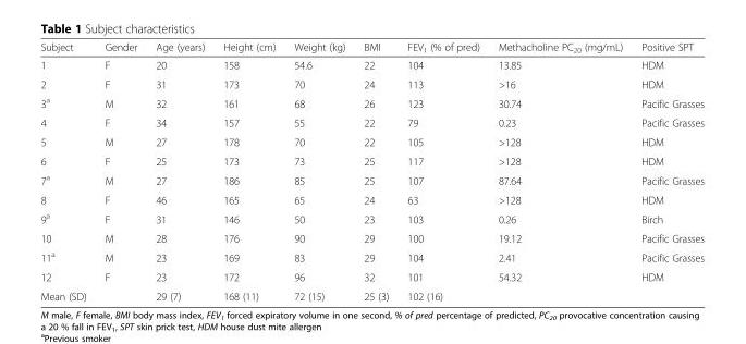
<table><thead><tr><td>Subject</td><td>Gender</td><td>Age (years)</td><td>Height (cm)</td><td>Weight (kg)</td><td>BMI</td><td>FEV<sub>1</sub> (% of pred)</td><td>Methacholine PC<sub>20</sub> (mg/mL)</td><td>Positive SPT</td></tr></thead><tbody><tr><td>1</td><td>F</td><td>20</td><td>158</td><td>54.6</td><td>22</td><td>104</td><td>13.85</td><td>HDM</td></tr><tr><td>2</td><td>F</td><td>31</td><td>173</td><td>70</td><td>24</td><td>113</td><td>&gt;16</td><td>HDM</td></tr><tr><td>3<sup>a</sup></td><td>M</td><td>32</td><td>161</td><td>68</td><td>26</td><td>123</td><td>30.74</td><td>Pacific Grasses</td></tr><tr><td>4</td><td>F</td><td>34</td><td>157</td><td>55</td><td>22</td><td>79</td><td>0.23</td><td>Pacific Grasses</td></tr><tr><td>5</td><td>M</td><td>27</td><td>178</td><td>70</td><td>22</td><td>105</td><td>&gt;128</td><td>HDM</td></tr><tr><td>6</td><td>F</td><td>25</td><td>173</td><td>73</td><td>25</td><td>117</td><td>&gt;128</td><td>HDM</td></tr><tr><td>7<sup>a</sup></td><td>M</td><td>27</td><td>186</td><td>85</td><td>25</td><td>107</td><td>87.64</td><td>Pacific Grasses</td></tr><tr><td>8</td><td>F</td><td>46</td><td>165</td><td>65</td><td>24</td><td>63</td><td>&gt;128</td><td>HDM</td></tr><tr><td>9<sup>a</sup></td><td>F</td><td>31</td><td>146</td><td>50</td><td>23</td><td>103</td><td>0.26</td><td>Birch</td></tr><tr><td>10</td><td>M</td><td>28</td><td>176</td><td>90</td><td>29</td><td>100</td><td>19.12</td><td>Pacific Grasses</td></tr><tr><td>11<sup>a</sup></td><td>M</td><td>23</td><td>169</td><td>83</td><td>29</td><td>104</td><td>2.41</td><td>Pacific Grasses</td></tr><tr><td>12</td><td>F</td><td>23</td><td>172</td><td>96</td><td>32</td><td>101</td><td>54.32</td><td>HDM</td></tr><tr><td>Mean (SD)</td><td></td><td>29 (7)</td><td>168 (11)</td><td>72 (15)</td><td>25 (3)</td><td>102 (16)</td><td></td><td></td></tr></tbody></table>